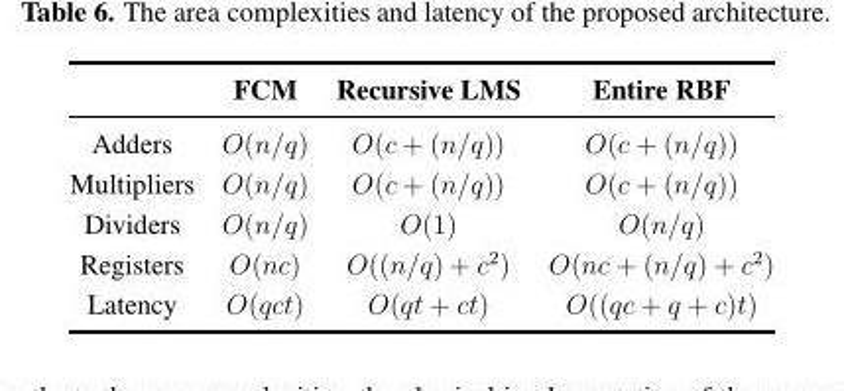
<table><thead><tr><td></td><td>FCM</td><td>Recursive LMS</td><td>Entire RBF</td></tr></thead><tbody><tr><td>Adders</td><td>O(n/q)</td><td>O(c + (n/q))</td><td>O(c + (n/q))</td></tr><tr><td>Multipliers</td><td>O(n/q)</td><td>O(c + (n/q))</td><td>O(c + (n/q))</td></tr><tr><td>Dividers</td><td>O(n/q)</td><td>O(1)</td><td>O(n/q)</td></tr><tr><td>Registers</td><td>O(nc)</td><td>O((n/q) + c<sup>2</sup>)</td><td>O(nc + (n/q) + c<sup>2</sup>)</td></tr><tr><td>Latency</td><td>O(qct)</td><td>O(qt + ct)</td><td>O((qc + q + c)t)</td></tr></tbody></table>